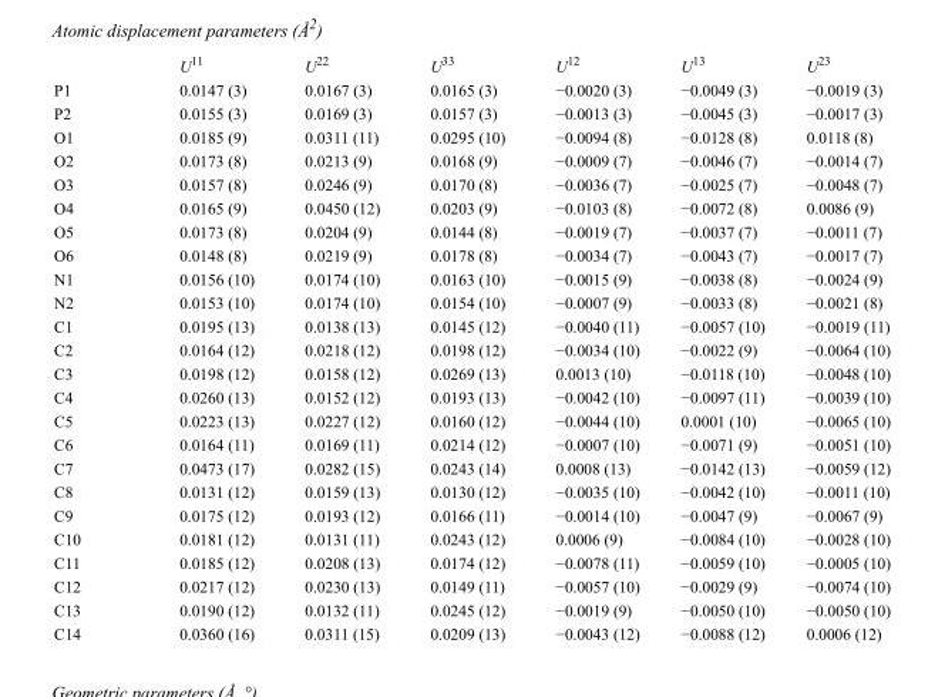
<table><thead><tr><td></td><td>U<sup>11</sup></td><td>U<sup>22</sup></td><td>U<sup>33</sup></td><td>U<sup>12</sup></td><td>U<sup>13</sup></td><td>U<sup>23</sup></td></tr></thead><tbody><tr><td>P1</td><td>0.0147 (3)</td><td>0.0167 (3)</td><td>0.0165 (3)</td><td>−0.0020 (3)</td><td>−0.0049 (3)</td><td>−0.0019 (3)</td></tr><tr><td>P2</td><td>0.0155 (3)</td><td>0.0169 (3)</td><td>0.0157 (3)</td><td>−0.0013 (3)</td><td>−0.0045 (3)</td><td>−0.0017 (3)</td></tr><tr><td>O1</td><td>0.0185 (9)</td><td>0.0311 (11)</td><td>0.0295 (10)</td><td>−0.0094 (8)</td><td>−0.0128 (8)</td><td>0.0118 (8)</td></tr><tr><td>O2</td><td>0.0173 (8)</td><td>0.0213 (9)</td><td>0.0168 (9)</td><td>−0.0009 (7)</td><td>−0.0046 (7)</td><td>−0.0014 (7)</td></tr><tr><td>O3</td><td>0.0157 (8)</td><td>0.0246 (9)</td><td>0.0170 (8)</td><td>−0.0036 (7)</td><td>−0.0025 (7)</td><td>−0.0048 (7)</td></tr><tr><td>O4</td><td>0.0165 (9)</td><td>0.0450 (12)</td><td>0.0203 (9)</td><td>−0.0103 (8)</td><td>−0.0072 (8)</td><td>0.0086 (9)</td></tr><tr><td>O5</td><td>0.0173 (8)</td><td>0.0204 (9)</td><td>0.0144 (8)</td><td>−0.0019 (7)</td><td>−0.0037 (7)</td><td>−0.0011 (7)</td></tr><tr><td>O6</td><td>0.0148 (8)</td><td>0.0219 (9)</td><td>0.0178 (8)</td><td>−0.0034 (7)</td><td>−0.0043 (7)</td><td>−0.0017 (7)</td></tr><tr><td>N1</td><td>0.0156 (10)</td><td>0.0174 (10)</td><td>0.0163 (10)</td><td>−0.0015 (9)</td><td>−0.0038 (8)</td><td>−0.0024 (9)</td></tr><tr><td>N2</td><td>0.0153 (10)</td><td>0.0174 (10)</td><td>0.0154 (10)</td><td>−0.0007 (9)</td><td>−0.0033 (8)</td><td>−0.0021 (8)</td></tr><tr><td>C1</td><td>0.0195 (13)</td><td>0.0138 (13)</td><td>0.0145 (12)</td><td>−0.0040 (11)</td><td>−0.0057 (10)</td><td>−0.0019 (11)</td></tr><tr><td>C2</td><td>0.0164 (12)</td><td>0.0218 (12)</td><td>0.0198 (12)</td><td>−0.0034 (10)</td><td>−0.0022 (9)</td><td>−0.0064 (10)</td></tr><tr><td>C3</td><td>0.0198 (12)</td><td>0.0158 (12)</td><td>0.0269 (13)</td><td>0.0013 (10)</td><td>−0.0118 (10)</td><td>−0.0048 (10)</td></tr><tr><td>C4</td><td>0.0260 (13)</td><td>0.0152 (12)</td><td>0.0193 (13)</td><td>−0.0042 (10)</td><td>−0.0097 (11)</td><td>−0.0039 (10)</td></tr><tr><td>C5</td><td>0.0223 (13)</td><td>0.0227 (12)</td><td>0.0160 (12)</td><td>−0.0044 (10)</td><td>0.0001 (10)</td><td>−0.0065 (10)</td></tr><tr><td>C6</td><td>0.0164 (11)</td><td>0.0169 (11)</td><td>0.0214 (12)</td><td>−0.0007 (10)</td><td>−0.0071 (9)</td><td>−0.0051 (10)</td></tr><tr><td>C7</td><td>0.0473 (17)</td><td>0.0282 (15)</td><td>0.0243 (14)</td><td>0.0008 (13)</td><td>−0.0142 (13)</td><td>−0.0059 (12)</td></tr><tr><td>C8</td><td>0.0131 (12)</td><td>0.0159 (13)</td><td>0.0130 (12)</td><td>−0.0035 (10)</td><td>−0.0042 (10)</td><td>−0.0011 (10)</td></tr><tr><td>C9</td><td>0.0175 (12)</td><td>0.0193 (12)</td><td>0.0166 (11)</td><td>−0.0014 (10)</td><td>−0.0047 (9)</td><td>−0.0067 (9)</td></tr><tr><td>C10</td><td>0.0181 (12)</td><td>0.0131 (11)</td><td>0.0243 (12)</td><td>0.0006 (9)</td><td>−0.0084 (10)</td><td>−0.0028 (10)</td></tr><tr><td>C11</td><td>0.0185 (12)</td><td>0.0208 (13)</td><td>0.0174 (12)</td><td>−0.0078 (11)</td><td>−0.0059 (10)</td><td>−0.0005 (10)</td></tr><tr><td>C12</td><td>0.0217 (12)</td><td>0.0230 (13)</td><td>0.0149 (11)</td><td>−0.0057 (10)</td><td>−0.0029 (9)</td><td>−0.0074 (10)</td></tr><tr><td>C13</td><td>0.0190 (12)</td><td>0.0132 (11)</td><td>0.0245 (12)</td><td>−0.0019 (9)</td><td>−0.0050 (10)</td><td>−0.0050 (10)</td></tr><tr><td>C14</td><td>0.0360 (16)</td><td>0.0311 (15)</td><td>0.0209 (13)</td><td>−0.0043 (12)</td><td>−0.0088 (12)</td><td>0.0006 (12)</td></tr></tbody></table>